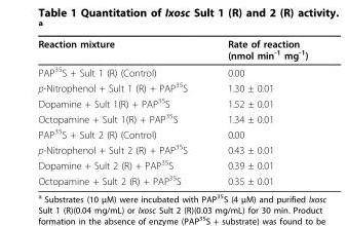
<table><thead><tr><td>Reaction mixture</td><td>Rate of reaction (nmol min<sup>-1</sup> mg<sup>-1</sup>)</td></tr></thead><tbody><tr><td>PAP<sup>35</sup>S + Sult 1 (R) (Control)</td><td>0.00</td></tr><tr><td>p-Nitrophenol + Sult 1 (R) + PAP<sup>35</sup>S</td><td>1.30 ± 0.01</td></tr><tr><td>Dopamine + Sult 1(R) + PAP<sup>35</sup>S</td><td>1.52 ± 0.01</td></tr><tr><td>Octopamine + Sult 1(R) + PAP<sup>35</sup>S</td><td>1.34 ± 0.01</td></tr><tr><td>PAP<sup>35</sup>S + Sult 2 (R) (Control)</td><td>0.00</td></tr><tr><td>p-Nitrophenol + Sult 2 (R) + PAP<sup>35</sup>S</td><td>0.43 ± 0.01</td></tr><tr><td>Dopamine + Sult 2 (R) + PAP<sup>35</sup>S</td><td>0.39 ± 0.01</td></tr><tr><td>Octopamine + Sult 2 (R) + PAP<sup>35</sup>S</td><td>0.35 ± 0.01</td></tr></tbody></table>